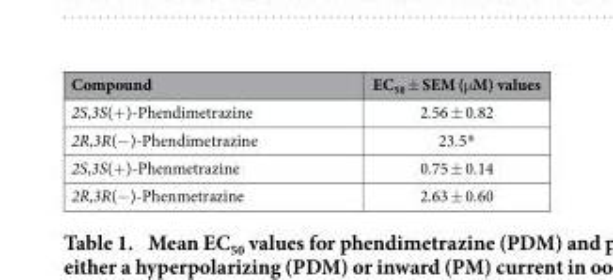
<table><thead><tr><td>Compound</td><td>EC<sub>50</sub> ± SEM (μ M) values</td></tr></thead><tbody><tr><td>2S,3S(+ )-Phendimetrazine</td><td>2.56 ± 0.82</td></tr><tr><td>2R,3R(− )-Phendimetrazine</td><td>23.5*</td></tr><tr><td>2S,3S(+ )-Phenmetrazine</td><td>0.75 ± 0.14</td></tr><tr><td>2R,3R(− )-Phenmetrazine</td><td>2.63 ± 0.60</td></tr></tbody></table>